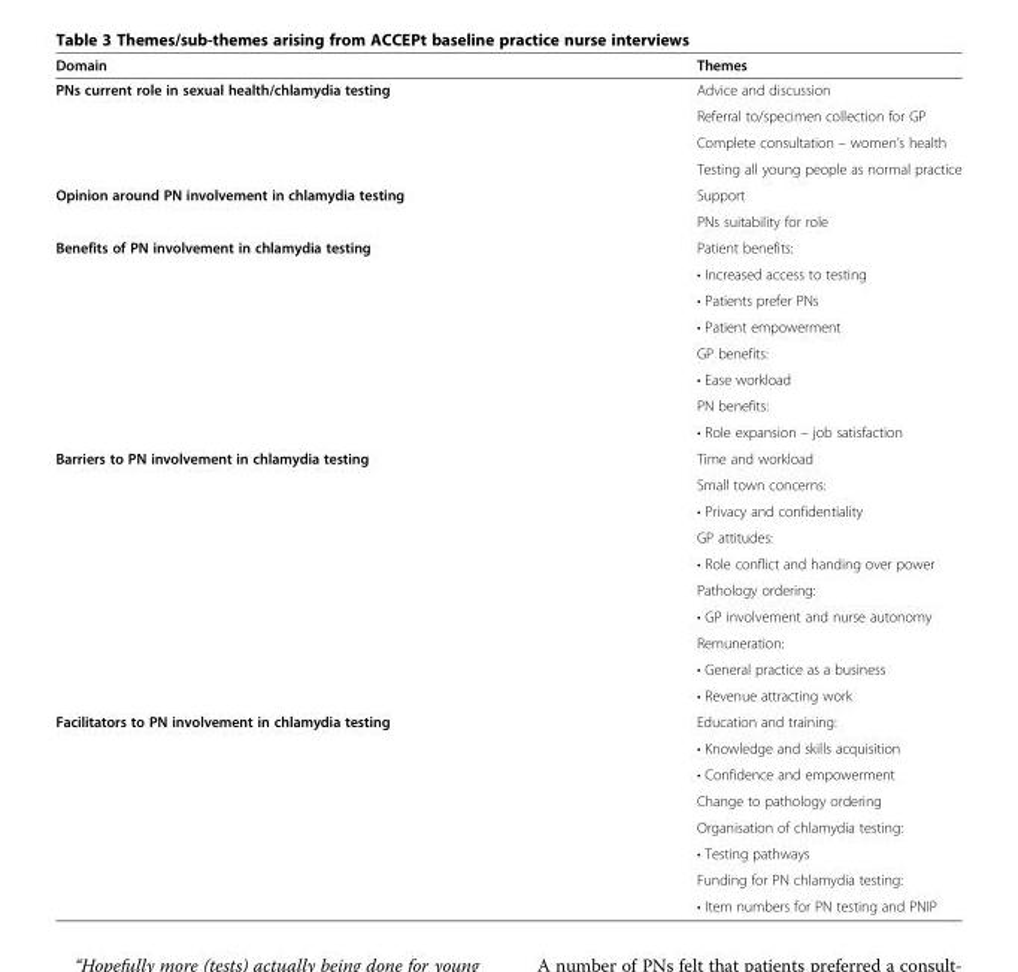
<table><thead><tr><td>Domain</td><td>Themes</td></tr></thead><tbody><tr><td rowspan="4">PNs current role in sexual health/chlamydia testing</td><td>Advice and discussion</td></tr><tr><td>Referral to/specimen collection for GP</td></tr><tr><td>Complete consultation – women’s health</td></tr><tr><td>Testing all young people as normal practice</td></tr><tr><td rowspan="2">Opinion around PN involvement in chlamydia testing</td><td>Support</td></tr><tr><td>PNs suitability for role</td></tr><tr><td rowspan="8">Benefits of PN involvement in chlamydia testing</td><td>Patient benefits:</td></tr><tr><td>• Increased access to testing</td></tr><tr><td>• Patients prefer PNs</td></tr><tr><td>• Patient empowerment</td></tr><tr><td>GP benefits:</td></tr><tr><td>• Ease workload</td></tr><tr><td>PN benefits:</td></tr><tr><td>• Role expansion – job satisfaction</td></tr><tr><td rowspan="10">Barriers to PN involvement in chlamydia testing</td><td>Time and workload</td></tr><tr><td>Small town concerns:</td></tr><tr><td>• Privacy and confidentiality</td></tr><tr><td>GP attitudes:</td></tr><tr><td>• Role conflict and handing over power</td></tr><tr><td>Pathology ordering:</td></tr><tr><td>• GP involvement and nurse autonomy</td></tr><tr><td>Remuneration:</td></tr><tr><td>• General practice as a business</td></tr><tr><td>• Revenue attracting work</td></tr><tr><td rowspan="8">Facilitators to PN involvement in chlamydia testing</td><td>Education and training:</td></tr><tr><td>• Knowledge and skills acquisition</td></tr><tr><td>• Confidence and empowerment</td></tr><tr><td>Change to pathology ordering</td></tr><tr><td>Organisation of chlamydia testing:</td></tr><tr><td>• Testing pathways</td></tr><tr><td>Funding for PN chlamydia testing:</td></tr><tr><td>• Item numbers for PN testing and PNIP</td></tr></tbody></table>